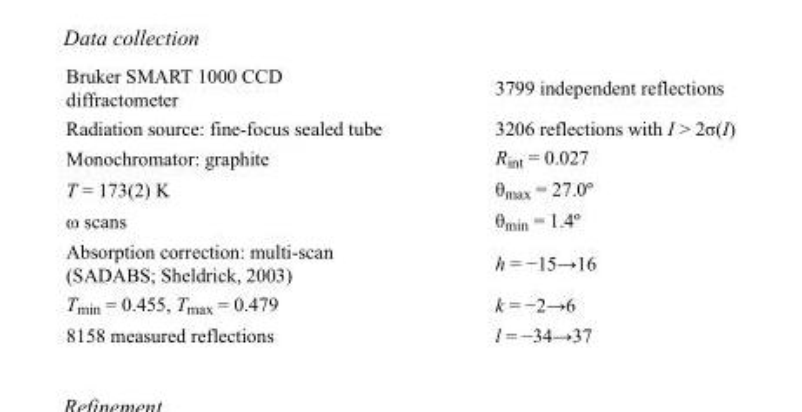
<table><tbody><tr><td>Bruker SMART 1000 CCD diffractometer</td><td>3799 independent reflections</td></tr><tr><td>Radiation source: fine-focus sealed tube</td><td>3206 reflections with I &gt; 2σ(I)</td></tr><tr><td>Monochromator: graphite</td><td>R<sub>int</sub> = 0.027</td></tr><tr><td>T = 173(2) K</td><td>θ<sub>max</sub> = 27.0º</td></tr><tr><td>ω scans</td><td>θ<sub>min</sub> = 1.4º</td></tr><tr><td>Absorption correction: multi-scan (SADABS; Sheldrick, 2003)</td><td>h = −15→16</td></tr><tr><td>T<sub>min</sub> = 0.455, T<sub>max</sub> = 0.479</td><td>k = −2→6</td></tr><tr><td>8158 measured reflections</td><td>l = −34→37</td></tr></tbody></table>